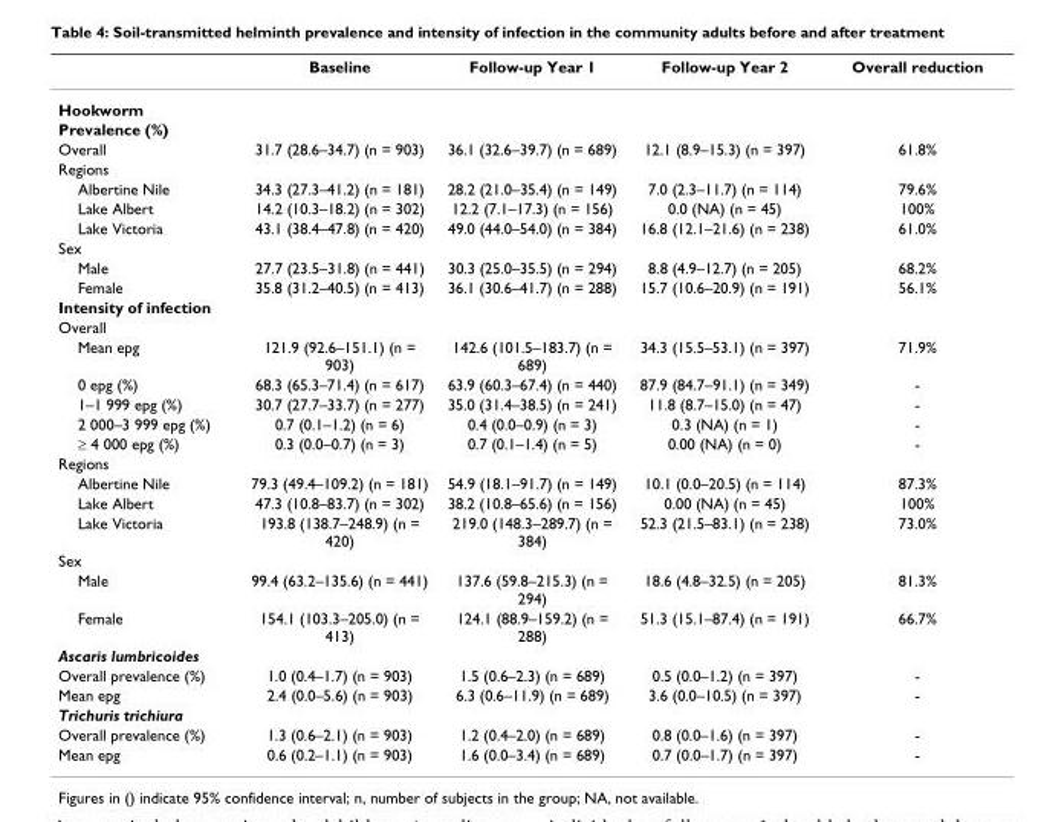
<table><thead><tr><td></td><td>Baseline</td><td>Follow-up Year 1</td><td>Follow-up Year 2</td><td>Overall reduction</td></tr></thead><tbody><tr><td colspan="5">Hookworm</td></tr><tr><td colspan="5">Prevalence (%)</td></tr><tr><td>Overall</td><td>31.7 (28.6–34.7) (n = 903)</td><td>36.1 (32.6–39.7) (n = 689)</td><td>12.1 (8.9–15.3) (n = 397)</td><td>61.8%</td></tr><tr><td colspan="5">Regions</td></tr><tr><td>Albertine Nile</td><td>34.3 (27.3–41.2) (n = 181)</td><td>28.2 (21.0–35.4) (n = 149)</td><td>7.0 (2.3–11.7) (n = 114)</td><td>79.6%</td></tr><tr><td>Lake Albert</td><td>14.2 (10.3–18.2) (n = 302)</td><td>12.2 (7.1–17.3) (n = 156)</td><td>0.0 (NA) (n = 45)</td><td>100%</td></tr><tr><td>Lake Victoria</td><td>43.1 (38.4–47.8) (n = 420)</td><td>49.0 (44.0–54.0) (n = 384)</td><td>16.8 (12.1–21.6) (n = 238)</td><td>61.0%</td></tr><tr><td colspan="5">Sex</td></tr><tr><td>Male</td><td>27.7 (23.5–31.8) (n = 441)</td><td>30.3 (25.0–35.5) (n = 294)</td><td>8.8 (4.9–12.7) (n = 205)</td><td>68.2%</td></tr><tr><td>Female</td><td>35.8 (31.2–40.5) (n = 413)</td><td>36.1 (30.6–41.7) (n = 288)</td><td>15.7 (10.6–20.9) (n = 191)</td><td>56.1%</td></tr><tr><td colspan="5">Intensity of infection</td></tr><tr><td colspan="5">Overall</td></tr><tr><td>Mean epg</td><td>121.9 (92.6–151.1) (n = 903)</td><td>142.6 (101.5–183.7) (n = 689)</td><td>34.3 (15.5–53.1) (n = 397)</td><td>71.9%</td></tr><tr><td>0 epg (%)</td><td>68.3 (65.3–71.4) (n = 617)</td><td>63.9 (60.3–67.4) (n = 440)</td><td>87.9 (84.7–91.1) (n = 349)</td><td>-</td></tr><tr><td>1–1 999 epg (%)</td><td>30.7 (27.7–33.7) (n = 277)</td><td>35.0 (31.4–38.5) (n = 241)</td><td>11.8 (8.7–15.0) (n = 47)</td><td>-</td></tr><tr><td>2 000–3 999 epg (%)</td><td>0.7 (0.1–1.2) (n = 6)</td><td>0.4 (0.0–0.9) (n = 3)</td><td>0.3 (NA) (n = 1)</td><td>-</td></tr><tr><td>≥ 4 000 epg (%)</td><td>0.3 (0.0–0.7) (n = 3)</td><td>0.7 (0.1–1.4) (n = 5)</td><td>0.00 (NA) (n = 0)</td><td>-</td></tr><tr><td colspan="5">Regions</td></tr><tr><td>Albertine Nile</td><td>79.3 (49.4–109.2) (n = 181)</td><td>54.9 (18.1–91.7) (n = 149)</td><td>10.1 (0.0–20.5) (n = 114)</td><td>87.3%</td></tr><tr><td>Lake Albert</td><td>47.3 (10.8–83.7) (n = 302)</td><td>38.2 (10.8–65.6) (n = 156)</td><td>0.00 (NA) (n = 45)</td><td>100%</td></tr><tr><td>Lake Victoria</td><td>193.8 (138.7–248.9) (n = 420)</td><td>219.0 (148.3–289.7) (n = 384)</td><td>52.3 (21.5–83.1) (n = 238)</td><td>73.0%</td></tr><tr><td colspan="5">Sex</td></tr><tr><td>Male</td><td>99.4 (63.2–135.6) (n = 441)</td><td>137.6 (59.8–215.3) (n = 294)</td><td>18.6 (4.8–32.5) (n = 205)</td><td>81.3%</td></tr><tr><td>Female</td><td>154.1 (103.3–205.0) (n = 413)</td><td>124.1 (88.9–159.2) (n = 288)</td><td>51.3 (15.1–87.4) (n = 191)</td><td>66.7%</td></tr><tr><td colspan="5">Ascaris lumbricoides</td></tr><tr><td>Overall prevalence (%)</td><td>1.0 (0.4–1.7) (n = 903)</td><td>1.5 (0.6–2.3) (n = 689)</td><td>0.5 (0.0–1.2) (n = 397)</td><td>-</td></tr><tr><td>Mean epg</td><td>2.4 (0.0–5.6) (n = 903)</td><td>6.3 (0.6–11.9) (n = 689)</td><td>3.6 (0.0–10.5) (n = 397)</td><td>-</td></tr><tr><td colspan="5">Trichuris trichiura</td></tr><tr><td>Overall prevalence (%)</td><td>1.3 (0.6–2.1) (n = 903)</td><td>1.2 (0.4–2.0) (n = 689)</td><td>0.8 (0.0–1.6) (n = 397)</td><td>-</td></tr><tr><td>Mean epg</td><td>0.6 (0.2–1.1) (n = 903)</td><td>1.6 (0.0–3.4) (n = 689)</td><td>0.7 (0.0–1.7) (n = 397)</td><td>-</td></tr></tbody></table>